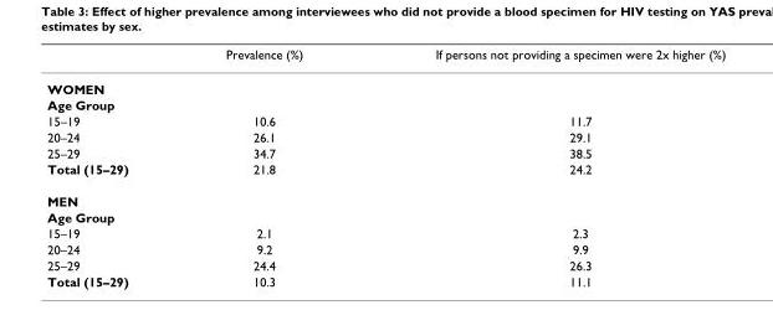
<table><thead><tr><td></td><td>Prevalence (%)</td><td>If persons not providing a specimen were 2x higher (%)</td></tr></thead><tbody><tr><td colspan="3">WOMEN</td></tr><tr><td colspan="3">Age Group</td></tr><tr><td>15–19</td><td>10.6</td><td>11.7</td></tr><tr><td>20–24</td><td>26.1</td><td>29.1</td></tr><tr><td>25–29</td><td>34.7</td><td>38.5</td></tr><tr><td>Total (15–29)</td><td>21.8</td><td>24.2</td></tr><tr><td colspan="3">MEN</td></tr><tr><td colspan="3">Age Group</td></tr><tr><td>15–19</td><td>2.1</td><td>2.3</td></tr><tr><td>20–24</td><td>9.2</td><td>9.9</td></tr><tr><td>25–29</td><td>24.4</td><td>26.3</td></tr><tr><td>Total (15–29)</td><td>10.3</td><td>11.1</td></tr></tbody></table>